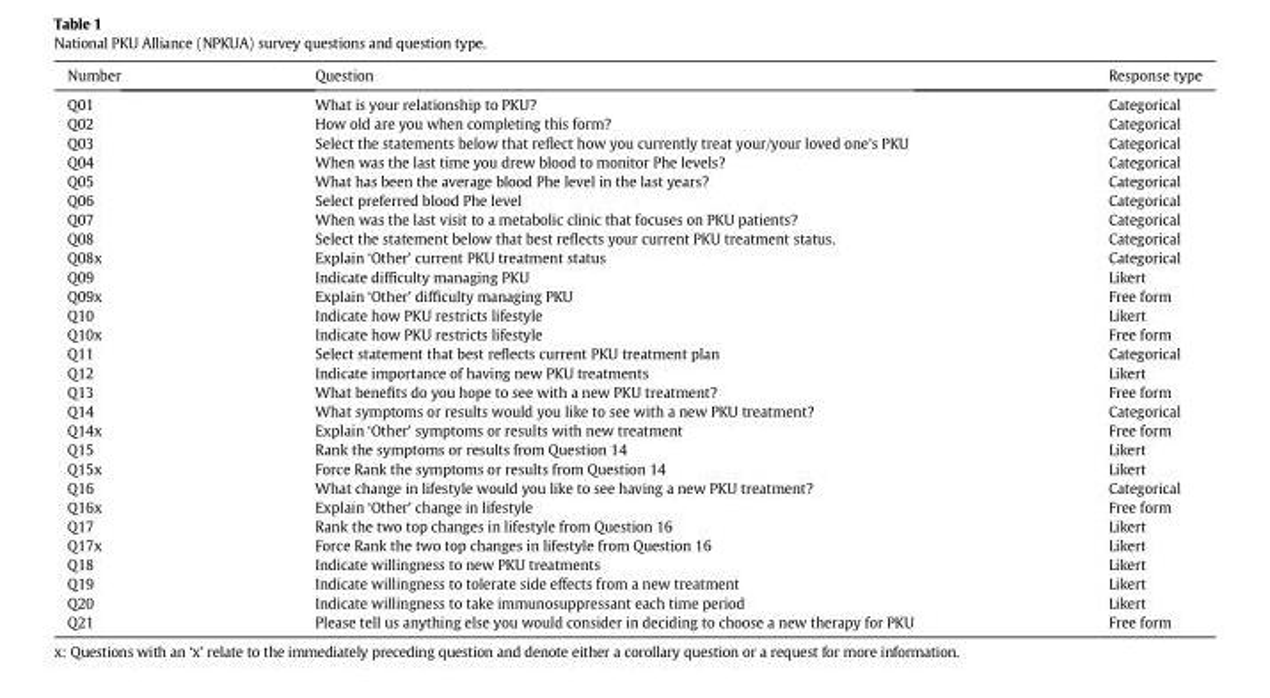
<table><thead><tr><td>Number</td><td>Question</td><td>Response type</td></tr></thead><tbody><tr><td>Q01</td><td>What is your relationship to PKU?</td><td>Categorical</td></tr><tr><td>Q02</td><td>How old are you when completing this form?</td><td>Categorical</td></tr><tr><td>Q03</td><td>Select the statements below that reflect how you currently treat your/your loved one&#x27;s PKU</td><td>Categorical</td></tr><tr><td>Q04</td><td>When was the last time you drew blood to monitor Phe levels?</td><td>Categorical</td></tr><tr><td>Q05</td><td>What has been the average blood Phe level in the last years?</td><td>Categorical</td></tr><tr><td>Q06</td><td>Select preferred blood Phe level</td><td>Categorical</td></tr><tr><td>Q07</td><td>When was the last visit to a metabolic clinic that focuses on PKU patients?</td><td>Categorical</td></tr><tr><td>Q08</td><td>Select the statement below that best reflects your current PKU treatment status.</td><td>Categorical</td></tr><tr><td>Q08x</td><td>Explain ‘Other’ current PKU treatment status</td><td>Categorical</td></tr><tr><td>Q09</td><td>Indicate difficulty managing PKU</td><td>Likert</td></tr><tr><td>Q09x</td><td>Explain ‘Other’ difficulty managing PKU</td><td>Free form</td></tr><tr><td>Q10</td><td>Indicate how PKU restricts lifestyle</td><td>Likert</td></tr><tr><td>Q10x</td><td>Indicate how PKU restricts lifestyle</td><td>Free form</td></tr><tr><td>Q11</td><td>Select statement that best reflects current PKU treatment plan</td><td>Categorical</td></tr><tr><td>Q12</td><td>Indicate importance of having new PKU treatments</td><td>Likert</td></tr><tr><td>Q13</td><td>What benefits do you hope to see with a new PKU treatment?</td><td>Free form</td></tr><tr><td>Q14</td><td>What symptoms or results would you like to see with a new PKU treatment?</td><td>Categorical</td></tr><tr><td>Q14x</td><td>Explain ‘Other’ symptoms or results with new treatment</td><td>Free form</td></tr><tr><td>Q15</td><td>Rank the symptoms or results from Question 14</td><td>Likert</td></tr><tr><td>Q15x</td><td>Force Rank the symptoms or results from Question 14</td><td>Likert</td></tr><tr><td>Q16</td><td>What change in lifestyle would you like to see having a new PKU treatment?</td><td>Categorical</td></tr><tr><td>Q16x</td><td>Explain ‘Other’ change in lifestyle</td><td>Free form</td></tr><tr><td>Q17</td><td>Rank the two top changes in lifestyle from Question 16</td><td>Likert</td></tr><tr><td>Q17x</td><td>Force Rank the two top changes in lifestyle from Question 16</td><td>Likert</td></tr><tr><td>Q18</td><td>Indicate willingness to new PKU treatments</td><td>Likert</td></tr><tr><td>Q19</td><td>Indicate willingness to tolerate side effects from a new treatment</td><td>Likert</td></tr><tr><td>Q20</td><td>Indicate willingness to take immunosuppressant each time period</td><td>Likert</td></tr><tr><td>Q21</td><td>Please tell us anything else you would consider in deciding to choose a new therapy for PKU</td><td>Free form</td></tr></tbody></table>